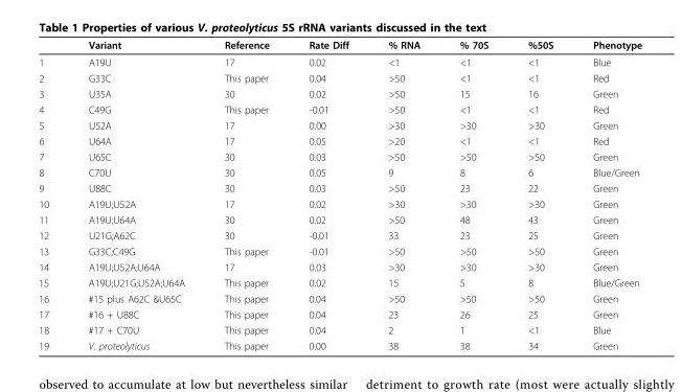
<table><thead><tr><td></td><td>Variant</td><td>Reference</td><td>Rate Diff</td><td>% RNA</td><td>% 70S</td><td>%50S</td><td>Phenotype</td></tr></thead><tbody><tr><td>1</td><td>A19U</td><td>17</td><td>0.02</td><td>&lt;1</td><td>&lt;1</td><td>&lt;1</td><td>Blue</td></tr><tr><td>2</td><td>G33C</td><td>This paper</td><td>0.04</td><td>&gt;50</td><td>&lt;1</td><td>&lt;1</td><td>Red</td></tr><tr><td>3</td><td>U35A</td><td>30</td><td>0.02</td><td>&gt;50</td><td>15</td><td>16</td><td>Green</td></tr><tr><td>4</td><td>C49G</td><td>This paper</td><td>-0.01</td><td>&gt;50</td><td>&lt;1</td><td>&lt;1</td><td>Red</td></tr><tr><td>5</td><td>U52A</td><td>17</td><td>0.00</td><td>&gt;30</td><td>&gt;30</td><td>&gt;30</td><td>Green</td></tr><tr><td>6</td><td>U64A</td><td>17</td><td>0.05</td><td>&gt;20</td><td>&lt;1</td><td>&lt;1</td><td>Red</td></tr><tr><td>7</td><td>U65C</td><td>30</td><td>0.03</td><td>&gt;50</td><td>&gt;50</td><td>&gt;50</td><td>Green</td></tr><tr><td>8</td><td>C70U</td><td>30</td><td>0.05</td><td>9</td><td>8</td><td>6</td><td>Blue/Green</td></tr><tr><td>9</td><td>U88C</td><td>30</td><td>0.03</td><td>&gt;50</td><td>23</td><td>22</td><td>Green</td></tr><tr><td>10</td><td>A19U;U52A</td><td>17</td><td>0.02</td><td>&gt;30</td><td>&gt;30</td><td>&gt;30</td><td>Green</td></tr><tr><td>11</td><td>A19U;U64A</td><td>30</td><td>0.02</td><td>&gt;50</td><td>48</td><td>43</td><td>Green</td></tr><tr><td>12</td><td>U21G;A62C</td><td>30</td><td>-0.01</td><td>33</td><td>23</td><td>25</td><td>Green</td></tr><tr><td>13</td><td>G33C;C49G</td><td>This paper</td><td>-0.01</td><td>&gt;50</td><td>&gt;50</td><td>&gt;50</td><td>Green</td></tr><tr><td>14</td><td>A19U;U52A;U64A</td><td>17</td><td>0.03</td><td>&gt;30</td><td>&gt;30</td><td>&gt;30</td><td>Green</td></tr><tr><td>15</td><td>A19U;U21G;U52A;U64A</td><td>This paper</td><td>0.02</td><td>15</td><td>5</td><td>8</td><td>Blue/Green</td></tr><tr><td>16</td><td>#15 plus A62C &amp;U65C</td><td>This paper</td><td>0.04</td><td>&gt;50</td><td>&gt;50</td><td>&gt;50</td><td>Green</td></tr><tr><td>17</td><td>#16 + U88C</td><td>This paper</td><td>0.04</td><td>23</td><td>26</td><td>25</td><td>Green</td></tr><tr><td>18</td><td>#17 + C70U</td><td>This paper</td><td>0.04</td><td>2</td><td>1</td><td>&lt;1</td><td>Blue</td></tr><tr><td>19</td><td>V. proteolyticus</td><td>This paper</td><td>0.00</td><td>38</td><td>38</td><td>34</td><td>Green</td></tr></tbody></table>